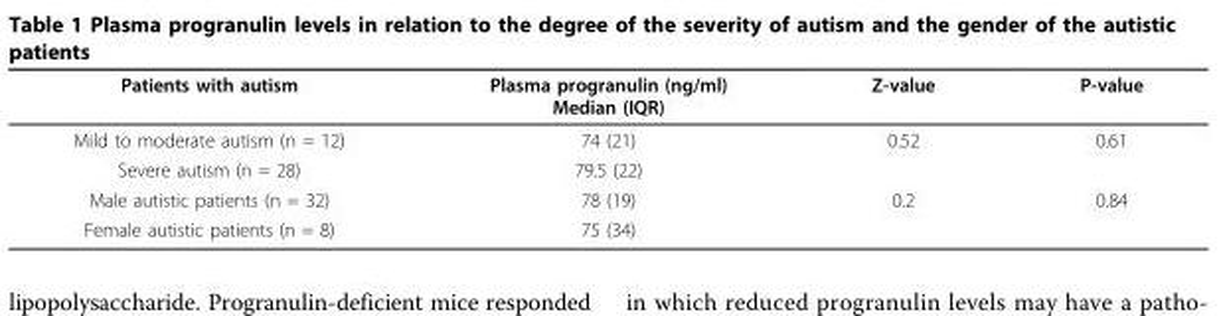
<table><thead><tr><td>Patients with autism</td><td>Plasma progranulin (ng/ml) Median (IQR)</td><td>Z-value</td><td>P-value</td></tr></thead><tbody><tr><td>Mild to moderate autism (n = 12)</td><td>74 (21)</td><td>0.52</td><td>0.61</td></tr><tr><td>Severe autism (n = 28)</td><td>79.5 (22)</td><td></td><td></td></tr><tr><td>Male autistic patients (n = 32)</td><td>78 (19)</td><td>0.2</td><td>0.84</td></tr><tr><td>Female autistic patients (n = 8)</td><td>75 (34)</td><td></td><td></td></tr></tbody></table>